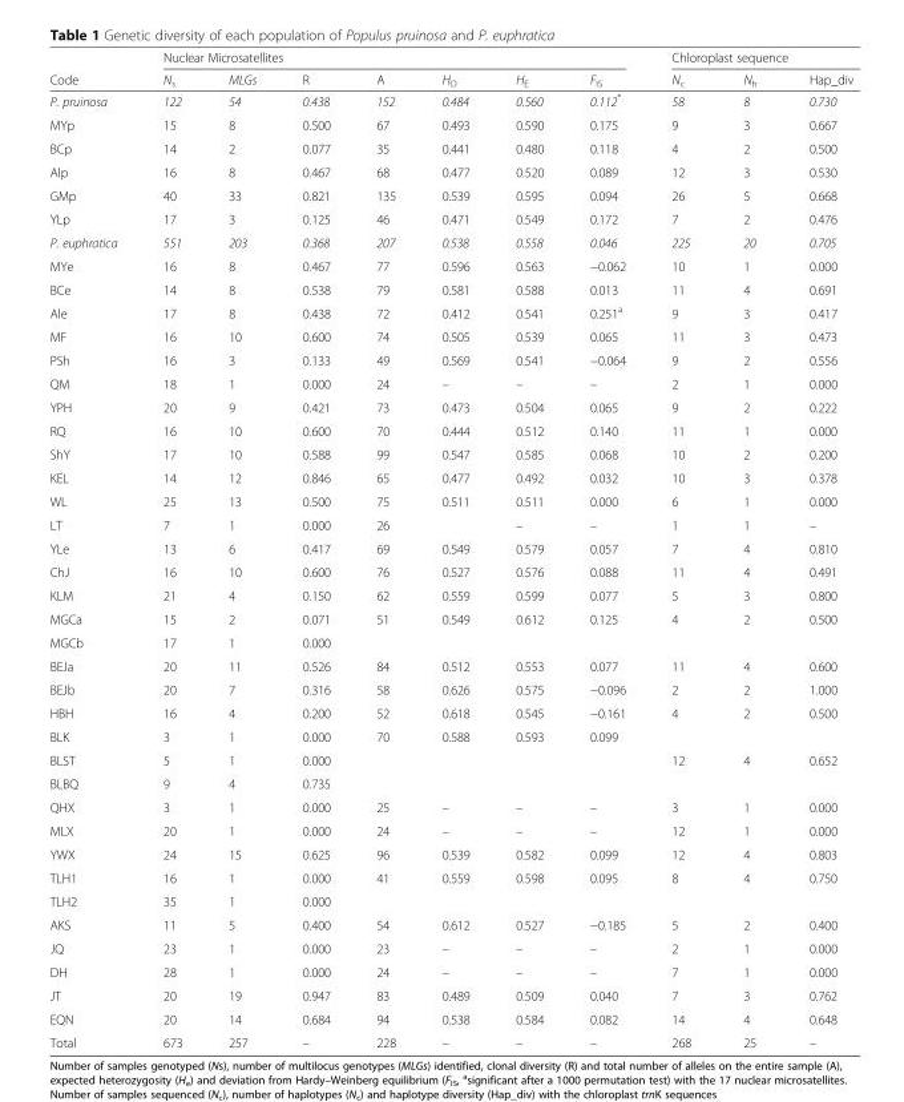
<table><thead><tr><td rowspan="2">Code</td><td colspan="7">Nuclear Microsatellites</td><td colspan="3">Chloroplast sequence</td></tr><tr><td>N<sub>s</sub></td><td>MLGs</td><td>R</td><td>A</td><td>H<sub>O</sub></td><td>H<sub>E</sub></td><td>F<sub>IS</sub></td><td>N<sub>c</sub></td><td>N<sub>h</sub></td><td>Hap_div</td></tr></thead><tbody><tr><td>P. pruinosa</td><td>122</td><td>54</td><td>0.438</td><td>152</td><td>0.484</td><td>0.560</td><td>0.112*</td><td>58</td><td>8</td><td>0.730</td></tr><tr><td>MYp</td><td>15</td><td>8</td><td>0.500</td><td>67</td><td>0.493</td><td>0.590</td><td>0.175</td><td>9</td><td>3</td><td>0.667</td></tr><tr><td>BCp</td><td>14</td><td>2</td><td>0.077</td><td>35</td><td>0.441</td><td>0.480</td><td>0.118</td><td>4</td><td>2</td><td>0.500</td></tr><tr><td>Alp</td><td>16</td><td>8</td><td>0.467</td><td>68</td><td>0.477</td><td>0.520</td><td>0.089</td><td>12</td><td>3</td><td>0.530</td></tr><tr><td>GMp</td><td>40</td><td>33</td><td>0.821</td><td>135</td><td>0.539</td><td>0.595</td><td>0.094</td><td>26</td><td>5</td><td>0.668</td></tr><tr><td>YLp</td><td>17</td><td>3</td><td>0.125</td><td>46</td><td>0.471</td><td>0.549</td><td>0.172</td><td>7</td><td>2</td><td>0.476</td></tr><tr><td>P. euphratica</td><td>551</td><td>203</td><td>0.368</td><td>207</td><td>0.538</td><td>0.558</td><td>0.046</td><td>225</td><td>20</td><td>0.705</td></tr><tr><td>MYe</td><td>16</td><td>8</td><td>0.467</td><td>77</td><td>0.596</td><td>0.563</td><td>−0.062</td><td>10</td><td>1</td><td>0.000</td></tr><tr><td>BCe</td><td>14</td><td>8</td><td>0.538</td><td>79</td><td>0.581</td><td>0.588</td><td>0.013</td><td>11</td><td>4</td><td>0.691</td></tr><tr><td>Ale</td><td>17</td><td>8</td><td>0.438</td><td>72</td><td>0.412</td><td>0.541</td><td>0.251<sup>a</sup></td><td>9</td><td>3</td><td>0.417</td></tr><tr><td>MF</td><td>16</td><td>10</td><td>0.600</td><td>74</td><td>0.505</td><td>0.539</td><td>0.065</td><td>11</td><td>3</td><td>0.473</td></tr><tr><td>PSh</td><td>16</td><td>3</td><td>0.133</td><td>49</td><td>0.569</td><td>0.541</td><td>−0.064</td><td>9</td><td>2</td><td>0.556</td></tr><tr><td>QM</td><td>18</td><td>1</td><td>0.000</td><td>24</td><td>–</td><td>–</td><td>–</td><td>2</td><td>1</td><td>0.000</td></tr><tr><td>YPH</td><td>20</td><td>9</td><td>0.421</td><td>73</td><td>0.473</td><td>0.504</td><td>0.065</td><td>9</td><td>2</td><td>0.222</td></tr><tr><td>RQ</td><td>16</td><td>10</td><td>0.600</td><td>70</td><td>0.444</td><td>0.512</td><td>0.140</td><td>11</td><td>1</td><td>0.000</td></tr><tr><td>ShY</td><td>17</td><td>10</td><td>0.588</td><td>99</td><td>0.547</td><td>0.585</td><td>0.068</td><td>10</td><td>2</td><td>0.200</td></tr><tr><td>KEL</td><td>14</td><td>12</td><td>0.846</td><td>65</td><td>0.477</td><td>0.492</td><td>0.032</td><td>10</td><td>3</td><td>0.378</td></tr><tr><td>WL</td><td>25</td><td>13</td><td>0.500</td><td>75</td><td>0.511</td><td>0.511</td><td>0.000</td><td>6</td><td>1</td><td>0.000</td></tr><tr><td>LT</td><td>7</td><td>1</td><td>0.000</td><td>26</td><td></td><td>–</td><td>–</td><td>1</td><td>1</td><td>–</td></tr><tr><td>YLe</td><td>13</td><td>6</td><td>0.417</td><td>69</td><td>0.549</td><td>0.579</td><td>0.057</td><td>7</td><td>4</td><td>0.810</td></tr><tr><td>ChJ</td><td>16</td><td>10</td><td>0.600</td><td>76</td><td>0.527</td><td>0.576</td><td>0.088</td><td>11</td><td>4</td><td>0.491</td></tr><tr><td>KLM</td><td>21</td><td>4</td><td>0.150</td><td>62</td><td>0.559</td><td>0.599</td><td>0.077</td><td>5</td><td>3</td><td>0.800</td></tr><tr><td>MGCa</td><td>15</td><td>2</td><td>0.071</td><td rowspan="2">51</td><td rowspan="2">0.549</td><td rowspan="2">0.612</td><td rowspan="2">0.125</td><td rowspan="2">4</td><td rowspan="2">2</td><td rowspan="2">0.500</td></tr><tr><td>MGCb</td><td>17</td><td>1</td><td>0.000</td></tr><tr><td>BEJa</td><td>20</td><td>11</td><td>0.526</td><td>84</td><td>0.512</td><td>0.553</td><td>0.077</td><td>11</td><td>4</td><td>0.600</td></tr><tr><td>BEJb</td><td>20</td><td>7</td><td>0.316</td><td>58</td><td>0.626</td><td>0.575</td><td>−0.096</td><td>2</td><td>2</td><td>1.000</td></tr><tr><td>HBH</td><td>16</td><td>4</td><td>0.200</td><td>52</td><td>0.618</td><td>0.545</td><td>−0.161</td><td>4</td><td>2</td><td>0.500</td></tr><tr><td>BLK</td><td>3</td><td>1</td><td>0.000</td><td rowspan="3">70</td><td rowspan="3">0.588</td><td rowspan="3">0.593</td><td rowspan="3">0.099</td><td></td><td></td><td></td></tr><tr><td>BLST</td><td>5</td><td>1</td><td>0.000</td><td>12</td><td>4</td><td>0.652</td></tr><tr><td>BLBQ</td><td>9</td><td>4</td><td>0.735</td><td></td><td></td><td></td></tr><tr><td>QHX</td><td>3</td><td>1</td><td>0.000</td><td>25</td><td>–</td><td>–</td><td>–</td><td>3</td><td>1</td><td>0.000</td></tr><tr><td>MLX</td><td>20</td><td>1</td><td>0.000</td><td>24</td><td>–</td><td>–</td><td>–</td><td>12</td><td>1</td><td>0.000</td></tr><tr><td>YWX</td><td>24</td><td>15</td><td>0.625</td><td>96</td><td>0.539</td><td>0.582</td><td>0.099</td><td>12</td><td>4</td><td>0.803</td></tr><tr><td>TLH1</td><td>16</td><td>1</td><td>0.000</td><td rowspan="2">41</td><td rowspan="2">0.559</td><td rowspan="2">0.598</td><td rowspan="2">0.095</td><td rowspan="2">8</td><td rowspan="2">4</td><td rowspan="2">0.750</td></tr><tr><td>TLH2</td><td>35</td><td>1</td><td>0.000</td></tr><tr><td>AKS</td><td>11</td><td>5</td><td>0.400</td><td>54</td><td>0.612</td><td>0.527</td><td>−0.185</td><td>5</td><td>2</td><td>0.400</td></tr><tr><td>JQ</td><td>23</td><td>1</td><td>0.000</td><td>23</td><td>–</td><td>–</td><td>–</td><td>2</td><td>1</td><td>0.000</td></tr><tr><td>DH</td><td>28</td><td>1</td><td>0.000</td><td>24</td><td>–</td><td>–</td><td>–</td><td>7</td><td>1</td><td>0.000</td></tr><tr><td>JT</td><td>20</td><td>19</td><td>0.947</td><td>83</td><td>0.489</td><td>0.509</td><td>0.040</td><td>7</td><td>3</td><td>0.762</td></tr><tr><td>EQN</td><td>20</td><td>14</td><td>0.684</td><td>94</td><td>0.538</td><td>0.584</td><td>0.082</td><td>14</td><td>4</td><td>0.648</td></tr><tr><td>Total</td><td>673</td><td>257</td><td>–</td><td>228</td><td>–</td><td>–</td><td>–</td><td>268</td><td>25</td><td>–</td></tr></tbody></table>